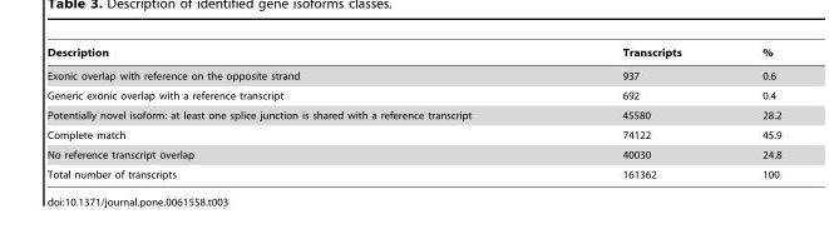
<table><thead><tr><td>Description</td><td>Transcripts</td><td>%</td></tr></thead><tbody><tr><td>Exonic overlap with reference on the opposite strand</td><td>937</td><td>0.6</td></tr><tr><td>Generic exonic overlap with a reference transcript</td><td>692</td><td>0.4</td></tr><tr><td>Potentially novel isoform: at least one splice junction is shared with a reference transcript</td><td>45580</td><td>28.2</td></tr><tr><td>Complete match</td><td>74122</td><td>45.9</td></tr><tr><td>No reference transcript overlap</td><td>40030</td><td>24.8</td></tr><tr><td>Total number of transcripts</td><td>161362</td><td>100</td></tr></tbody></table>